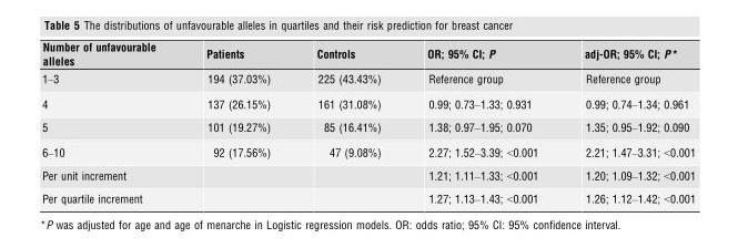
<table><thead><tr><td>Number of unfavourable alleles</td><td>Patients</td><td>Controls</td><td>OR; 95% CI; P</td><td>adj-OR; 95% CI; P *</td></tr></thead><tbody><tr><td>1–3</td><td>194 (37.03%)</td><td>225 (43.43%)</td><td>Reference group</td><td>Reference group</td></tr><tr><td>4</td><td>137 (26.15%)</td><td>161 (31.08%)</td><td>0.99; 0.73–1.33; 0.931</td><td>0.99; 0.74–1.34; 0.961</td></tr><tr><td>5</td><td>101 (19.27%)</td><td>85 (16.41%)</td><td>1.38; 0.97–1.95; 0.070</td><td>1.35; 0.95–1.92; 0.090</td></tr><tr><td>6–10</td><td>92 (17.56%)</td><td>47 (9.08%)</td><td>2.27; 1.52–3.39; &lt;0.001</td><td>2.21; 1.47–3.31; &lt;0.001</td></tr><tr><td>Per unit increment</td><td></td><td></td><td>1.21; 1.11–1.33; &lt;0.001</td><td>1.20; 1.09–1.32; &lt;0.001</td></tr><tr><td>Per quartile increment</td><td></td><td></td><td>1.27; 1.13–1.43; &lt;0.001</td><td>1.26; 1.12–1.42; &lt;0.001</td></tr></tbody></table>